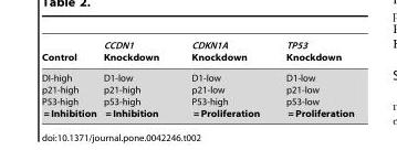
<table><thead><tr><td>Control</td><td>CCDN1 Knockdown</td><td>CDKN1A Knockdown</td><td>TP53 Knockdown</td></tr></thead><tbody><tr><td>DI-high p21-high P53-high = Inhibition</td><td>D1-low p21-high p53-high = Inhibition</td><td>D1-low p21-low P53-high = Proliferation</td><td>D1-low p21-low p53-low = Proliferation</td></tr></tbody></table>